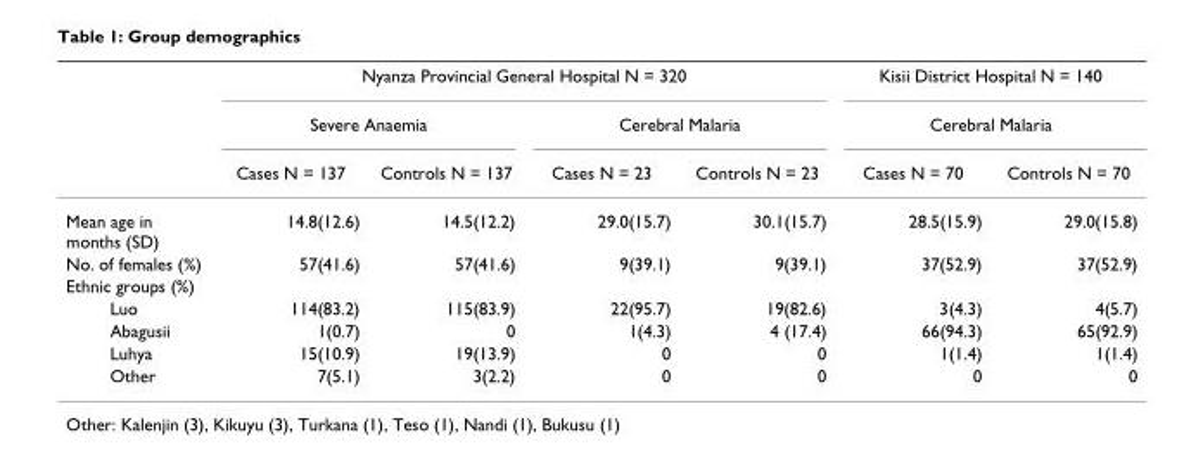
<table><thead><tr><td rowspan="3"></td><td colspan="4">Nyanza Provincial General Hospital N = 320</td><td rowspan="2" colspan="2">Kisii District Hospital N = 140 Cerebral Malaria</td></tr><tr><td colspan="2">Severe Anaemia</td><td colspan="2">Cerebral Malaria</td></tr><tr><td>Cases N = 137</td><td>Controls N = 137</td><td>Cases N = 23</td><td>Controls N = 23</td><td>Cases N = 70</td><td>Controls N = 70</td></tr></thead><tbody><tr><td>Mean age in months (SD)</td><td>14.8(12.6)</td><td>14.5(12.2)</td><td>29.0(15.7)</td><td>30.1(15.7)</td><td>28.5(15.9)</td><td>29.0(15.8)</td></tr><tr><td>No. of females (%)</td><td>57(41.6)</td><td>57(41.6)</td><td>9(39.1)</td><td>9(39.1)</td><td>37(52.9)</td><td>37(52.9)</td></tr><tr><td colspan="7">Ethnic groups (%)</td></tr><tr><td>Luo</td><td>114(83.2)</td><td>115(83.9)</td><td>22(95.7)</td><td>19(82.6)</td><td>3(4.3)</td><td>4(5.7)</td></tr><tr><td>Abagusii</td><td>1(0.7)</td><td>0</td><td>1(4.3)</td><td>4 (17.4)</td><td>66(94.3)</td><td>65(92.9)</td></tr><tr><td>Luhya</td><td>15(10.9)</td><td>19(13.9)</td><td>0</td><td>0</td><td>1(1.4)</td><td>1(1.4)</td></tr><tr><td>Other</td><td>7(5.1)</td><td>3(2.2)</td><td>0</td><td>0</td><td>0</td><td>0</td></tr></tbody></table>